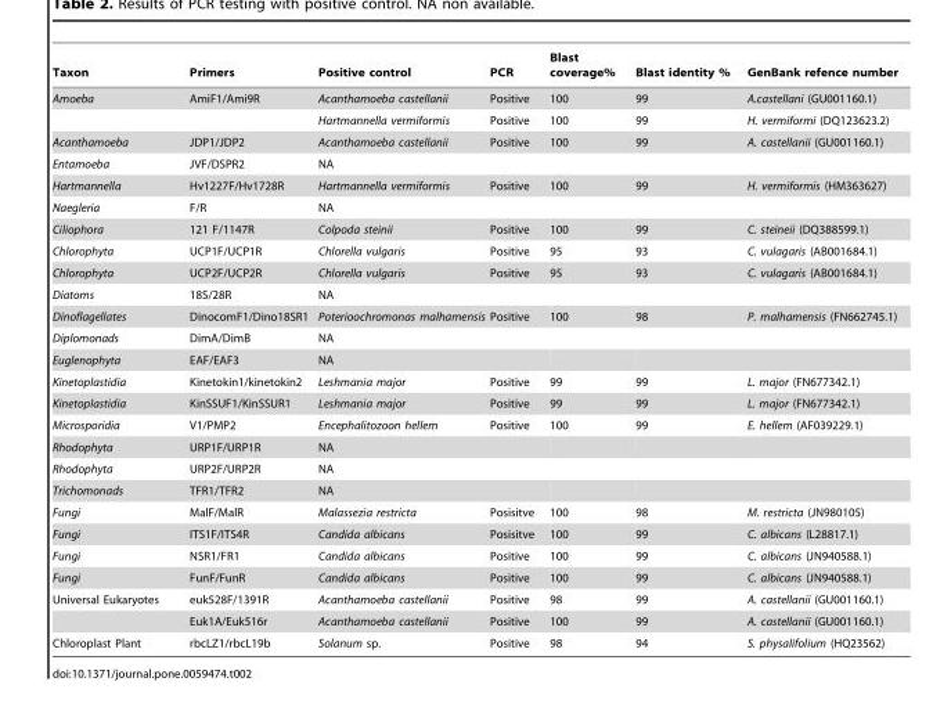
<table><thead><tr><td>Taxon</td><td>Primers</td><td>Positive control</td><td>PCR</td><td>Blast coverage%</td><td>Blast identity %</td><td>GenBank refence number</td></tr></thead><tbody><tr><td rowspan="2">Amoeba</td><td>AmiF1/Ami9R</td><td>Acanthamoeba castellanii</td><td>Positive</td><td>100</td><td>99</td><td>A.castellani (GU001160.1)</td></tr><tr><td></td><td>Hartmannella vermiformis</td><td>Positive</td><td>100</td><td>99</td><td>H. vermiformi (DQ123623.2)</td></tr><tr><td>Acanthamoeba</td><td>JDP1/JDP2</td><td>Acanthamoeba castellanii</td><td>Positive</td><td>100</td><td>99</td><td>A. castellanii (GU001160.1)</td></tr><tr><td>Entamoeba</td><td>JVF/DSPR2</td><td>NA</td><td></td><td></td><td></td><td></td></tr><tr><td>Hartmannella</td><td>Hv1227F/Hv1728R</td><td>Hartmannella vermiformis</td><td>Positive</td><td>100</td><td>99</td><td>H. vermiformis (HM363627)</td></tr><tr><td>Naegleria</td><td>F/R</td><td>NA</td><td></td><td></td><td></td><td></td></tr><tr><td>Ciliophora</td><td>121 F/1147R</td><td>Colpoda steinii</td><td>Positive</td><td>100</td><td>99</td><td>C. steineii (DQ388599.1)</td></tr><tr><td>Chlorophyta</td><td>UCP1F/UCP1R</td><td>Chlorella vulgaris</td><td>Positive</td><td>95</td><td>93</td><td>C. vulagaris (AB001684.1)</td></tr><tr><td>Chlorophyta</td><td>UCP2F/UCP2R</td><td>Chlorella vulgaris</td><td>Positive</td><td>95</td><td>93</td><td>C. vulagaris (AB001684.1)</td></tr><tr><td>Diatoms</td><td>18S/28R</td><td>NA</td><td></td><td></td><td></td><td></td></tr><tr><td>Dinoflagellates</td><td>DinocomF1/Dino18SR1</td><td>Poterioochromonas malhamensis</td><td>Positive</td><td>100</td><td>98</td><td>P. malhamensis (FN662745.1)</td></tr><tr><td>Diplomonads</td><td>DimA/DimB</td><td>NA</td><td></td><td></td><td></td><td></td></tr><tr><td>Euglenophyta</td><td>EAF/EAF3</td><td>NA</td><td></td><td></td><td></td><td></td></tr><tr><td>Kinetoplastidia</td><td>Kinetokin1/kinetokin2</td><td>Leshmania major</td><td>Positive</td><td>99</td><td>99</td><td>L. major (FN677342.1)</td></tr><tr><td>Kinetoplastidia</td><td>KinSSUF1/KinSSUR1</td><td>Leshmania major</td><td>Positive</td><td>99</td><td>99</td><td>L. major (FN677342.1)</td></tr><tr><td>Microsporidia</td><td>V1/PMP2</td><td>Encephalitozoon hellem</td><td>Positive</td><td>100</td><td>99</td><td>E. hellem (AF039229.1)</td></tr><tr><td>Rhodophyta</td><td>URP1F/URP1R</td><td>NA</td><td></td><td></td><td></td><td></td></tr><tr><td>Rhodophyta</td><td>URP2F/URP2R</td><td>NA</td><td></td><td></td><td></td><td></td></tr><tr><td>Trichomonads</td><td>TFR1/TFR2</td><td>NA</td><td></td><td></td><td></td><td></td></tr><tr><td>Fungi</td><td>MalF/MalR</td><td>Malassezia restricta</td><td>Posisitve</td><td>100</td><td>98</td><td>M. restricta (JN980105)</td></tr><tr><td>Fungi</td><td>ITS1F/ITS4R</td><td>Candida albicans</td><td>Posisitve</td><td>100</td><td>99</td><td>C. albicans (L28817.1)</td></tr><tr><td>Fungi</td><td>NSR1/FR1</td><td>Candida albicans</td><td>Positive</td><td>100</td><td>99</td><td>C. albicans (JN940588.1)</td></tr><tr><td>Fungi</td><td>FunF/FunR</td><td>Candida albicans</td><td>Positive</td><td>100</td><td>99</td><td>C. albicans (JN940588.1)</td></tr><tr><td rowspan="2">Universal Eukaryotes</td><td>euk528F/1391R</td><td>Acanthamoeba castellanii</td><td>Positive</td><td>98</td><td>99</td><td>A. castellanii (GU001160.1)</td></tr><tr><td>Euk1A/Euk516r</td><td>Acanthamoeba castellanii</td><td>Positive</td><td>100</td><td>99</td><td>A. castellanii (GU001160.1)</td></tr><tr><td>Chloroplast Plant</td><td>rbcLZ1/rbcL19b</td><td>Solanum sp.</td><td>Positive</td><td>98</td><td>94</td><td>S. physalifolium (HQ23562)</td></tr></tbody></table>